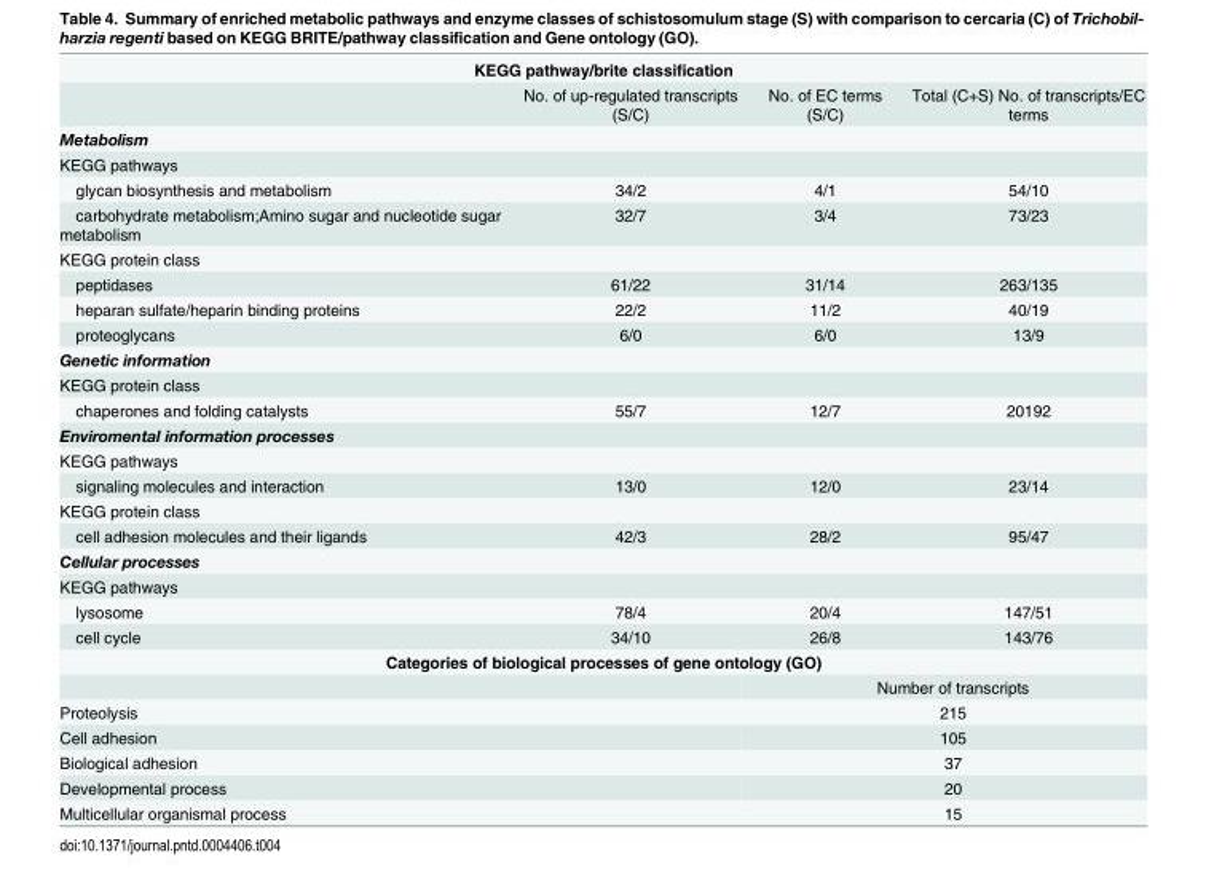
<table><tbody><tr><td colspan="4">KEGG pathway/brite classification</td></tr><tr><td></td><td>No. of up-regulated transcripts (S/C)</td><td>No. of EC terms (S/C)</td><td>Total (C+S) No. of transcripts/EC terms</td></tr><tr><td colspan="4">Metabolism</td></tr><tr><td colspan="4">KEGG pathways</td></tr><tr><td>glycan biosynthesis and metabolism</td><td>34/2</td><td>4/1</td><td>54/10</td></tr><tr><td>carbohydrate metabolism;Amino sugar and nucleotide sugar metabolism</td><td>32/7</td><td>3/4</td><td>73/23</td></tr><tr><td colspan="4">KEGG protein class</td></tr><tr><td>peptidases</td><td>61/22</td><td>31/14</td><td>263/135</td></tr><tr><td>heparan sulfate/heparin binding proteins</td><td>22/2</td><td>11/2</td><td>40/19</td></tr><tr><td>proteoglycans</td><td>6/0</td><td>6/0</td><td>13/9</td></tr><tr><td colspan="4">Genetic information</td></tr><tr><td colspan="4">KEGG protein class</td></tr><tr><td>chaperones and folding catalysts</td><td>55/7</td><td>12/7</td><td>20192</td></tr><tr><td colspan="4">Enviromental information processes</td></tr><tr><td colspan="4">KEGG pathways</td></tr><tr><td>signaling molecules and interaction</td><td>13/0</td><td>12/0</td><td>23/14</td></tr><tr><td colspan="4">KEGG protein class</td></tr><tr><td>cell adhesion molecules and their ligands</td><td>42/3</td><td>28/2</td><td>95/47</td></tr><tr><td colspan="4">Cellular processes</td></tr><tr><td colspan="4">KEGG pathways</td></tr><tr><td>lysosome</td><td>78/4</td><td>20/4</td><td>147/51</td></tr><tr><td>cell cycle</td><td>34/10</td><td>26/8</td><td>143/76</td></tr><tr><td colspan="4">Categories of biological processes of gene ontology (GO)</td></tr><tr><td colspan="2"></td><td colspan="2">Number of transcripts</td></tr><tr><td colspan="2">Proteolysis</td><td colspan="2">215</td></tr><tr><td colspan="2">Cell adhesion</td><td colspan="2">105</td></tr><tr><td colspan="2">Biological adhesion</td><td colspan="2">37</td></tr><tr><td colspan="2">Developmental process</td><td colspan="2">20</td></tr><tr><td colspan="2">Multicellular organismal process</td><td colspan="2">15</td></tr></tbody></table>